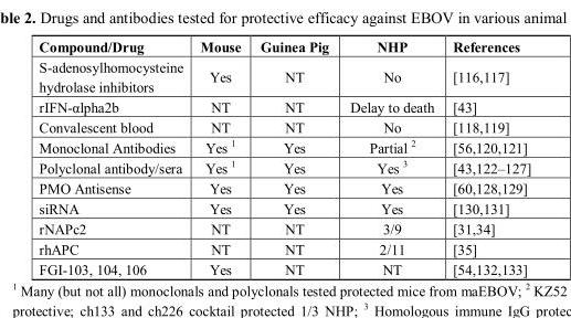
<table><thead><tr><td>Compound/Drug</td><td>Mouse</td><td>Guinea Pig</td><td>NHP</td><td>References</td></tr></thead><tbody><tr><td>S-adenosylhomocysteine hydrolase inhibitors</td><td>Yes</td><td>NT</td><td>No</td><td>[116,117]</td></tr><tr><td>rIFN-αlpha2b</td><td>NT</td><td>NT</td><td>Delay to death</td><td>[43]</td></tr><tr><td>Convalescent blood</td><td>NT</td><td>NT</td><td>No</td><td>[118,119]</td></tr><tr><td>Monoclonal Antibodies</td><td>Yes <sup>1</sup></td><td>Yes</td><td>Partial <sup>2</sup></td><td>[56,120,121]</td></tr><tr><td>Polyclonal antibody/sera</td><td>Yes <sup>1</sup></td><td>Yes</td><td>Yes <sup>3</sup></td><td>[43,122–127]</td></tr><tr><td>PMO Antisense</td><td>Yes</td><td>Yes</td><td>Yes</td><td>[60,128,129]</td></tr><tr><td>siRNA</td><td>Yes</td><td>Yes</td><td>Yes</td><td>[130,131]</td></tr><tr><td>rNAPc2</td><td>NT</td><td>NT</td><td>3/9</td><td>[31,34]</td></tr><tr><td>rhAPC</td><td>NT</td><td>NT</td><td>2/11</td><td>[35]</td></tr><tr><td>FGI-103, 104, 106</td><td>Yes</td><td>NT</td><td>NT</td><td>[54,132,133]</td></tr></tbody></table>